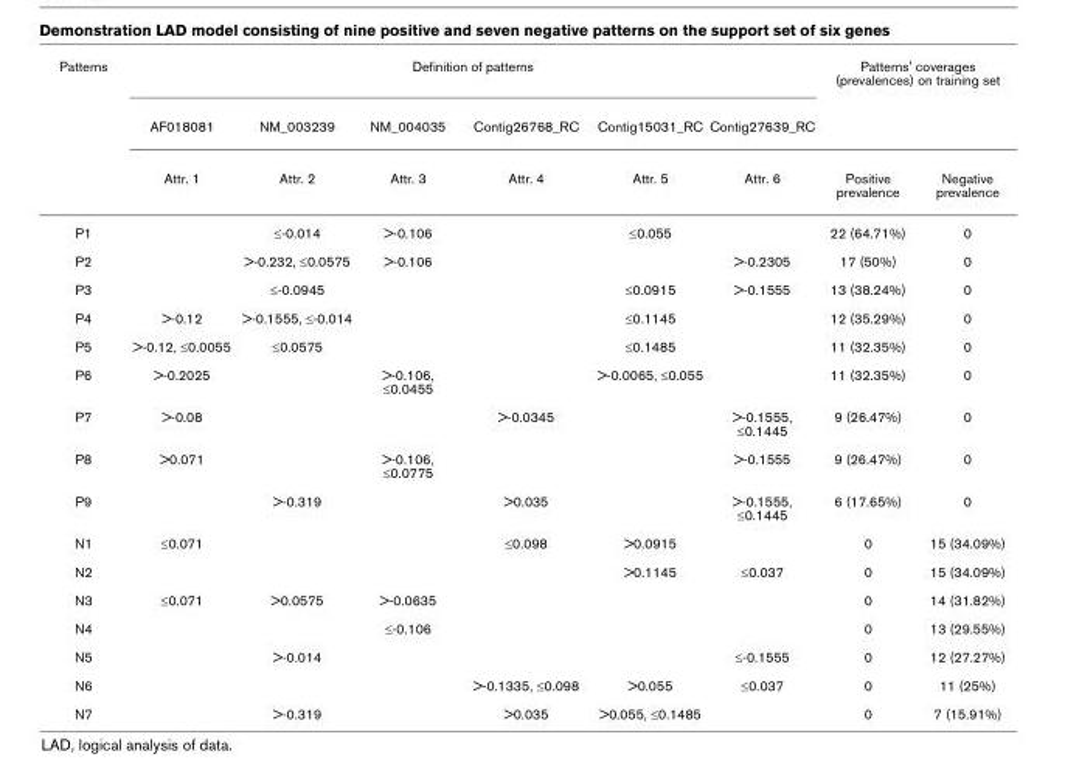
<table><thead><tr><td rowspan="3">Patterns</td><td colspan="6">Definition of patterns</td><td colspan="2">Patterns&#x27; coverages (prevalences) on training set</td></tr><tr><td rowspan="2">AF018081 Attr. 1</td><td rowspan="2">NM_003239 Attr. 2</td><td rowspan="2">NM_004035 Attr. 3</td><td rowspan="2">Contig26768_RC Attr. 4</td><td rowspan="2">Contig15031_RC Attr. 5</td><td rowspan="2">Contig27639_RC Attr. 6</td><td rowspan="2">Positive prevalence</td><td rowspan="2">Negative prevalence</td></tr><tr></tr></thead><tbody><tr><td>P1</td><td></td><td>≤-0.014</td><td>&gt;-0.106</td><td></td><td>≤0.055</td><td></td><td>22 (64.71%)</td><td>0</td></tr><tr><td>P2</td><td></td><td>&gt;-0.232, ≤0.0575</td><td>&gt;-0.106</td><td></td><td></td><td>&gt;-0.2305</td><td>17 (50%)</td><td>0</td></tr><tr><td>P3</td><td></td><td>≤-0.0945</td><td></td><td></td><td>≤0.0915</td><td>&gt;-0.1555</td><td>13 (38.24%)</td><td>0</td></tr><tr><td>P4</td><td>&gt;-0.12</td><td>&gt;-0.1555, ≤-0.014</td><td></td><td></td><td>≤0.1145</td><td></td><td>12 (35.29%)</td><td>0</td></tr><tr><td>P5</td><td>&gt;-0.12, ≤0.0055</td><td>≤0.0575</td><td></td><td></td><td>≤0.1485</td><td></td><td>11 (32.35%)</td><td>0</td></tr><tr><td>P6</td><td>&gt;-0.2025</td><td></td><td>&gt;-0.106, ≤0.0455</td><td></td><td>&gt;-0.0065, ≤0.055</td><td></td><td>11 (32.35%)</td><td>0</td></tr><tr><td>P7</td><td>&gt;-0.08</td><td></td><td></td><td>&gt;-0.0345</td><td></td><td>&gt;-0.1555, ≤0.1445</td><td>9 (26.47%)</td><td>0</td></tr><tr><td>P8</td><td>&gt;0.071</td><td></td><td>&gt;-0.106, ≤0.0775</td><td></td><td></td><td>&gt;-0.1555</td><td>9 (26.47%)</td><td>0</td></tr><tr><td>P9</td><td></td><td>&gt;-0.319</td><td></td><td>&gt;0.035</td><td></td><td>&gt;-0.1555, ≤0.1445</td><td>6 (17.65%)</td><td>0</td></tr><tr><td>N1</td><td>≤0.071</td><td></td><td></td><td>≤0.098</td><td>&gt;0.0915</td><td></td><td>0</td><td>15 (34.09%)</td></tr><tr><td>N2</td><td></td><td></td><td></td><td></td><td>&gt;0.1145</td><td>≤0.037</td><td>0</td><td>15 (34.09%)</td></tr><tr><td>N3</td><td>≤0.071</td><td>&gt;0.0575</td><td>&gt;-0.0635</td><td></td><td></td><td></td><td>0</td><td>14 (31.82%)</td></tr><tr><td>N4</td><td></td><td></td><td>≤-0.106</td><td></td><td></td><td></td><td>0</td><td>13 (29.55%)</td></tr><tr><td>N5</td><td></td><td>&gt;-0.014</td><td></td><td></td><td></td><td>≤-0.1555</td><td>0</td><td>12 (27.27%)</td></tr><tr><td>N6</td><td></td><td></td><td></td><td>&gt;-0.1335, ≤0.098</td><td>&gt;0.055</td><td>≤0.037</td><td>0</td><td>11 (25%)</td></tr><tr><td>N7</td><td></td><td>&gt;-0.319</td><td></td><td>&gt;0.035</td><td>&gt;0.055, ≤0.1485</td><td></td><td>0</td><td>7 (15.91%)</td></tr></tbody></table>